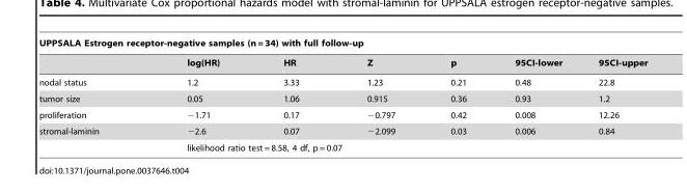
<table><thead><tr><td colspan="7">UPPSALA Estrogen receptor-negative samples (n = 34) with full follow-up</td></tr><tr><td></td><td>log(HR)</td><td>HR</td><td>Z</td><td>p</td><td>95CI-lower</td><td>95CI-upper</td></tr></thead><tbody><tr><td>nodal status</td><td>1.2</td><td>3.33</td><td>1.23</td><td>0.21</td><td>0.48</td><td>22.8</td></tr><tr><td>tumor size</td><td>0.05</td><td>1.06</td><td>0.915</td><td>0.36</td><td>0.93</td><td>1.2</td></tr><tr><td>proliferation</td><td>−1.71</td><td>0.17</td><td>−0.797</td><td>0.42</td><td>0.008</td><td>12.26</td></tr><tr><td rowspan="2">stromal-laminin</td><td>−2.6</td><td>0.07</td><td>−2.099</td><td>0.03</td><td>0.006</td><td>0.84</td></tr><tr><td colspan="6">likelihood ratio test = 8.58, 4 df, p = 0.07</td></tr></tbody></table>